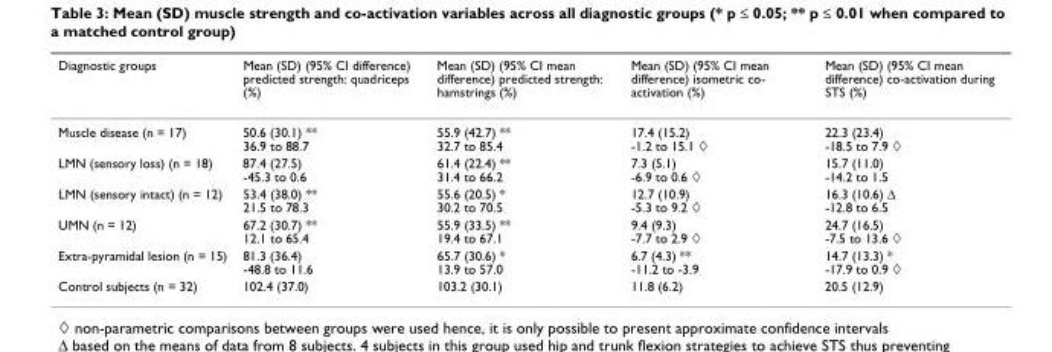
<table><thead><tr><td>Diagnostic groups</td><td>Mean (SD) (95% CI difference) predicted strength: quadriceps (%)</td><td>Mean (SD) (95% CI mean difference) predicted strength: hamstrings (%)</td><td>Mean (SD) (95% CI mean difference) isometric co- activation (%)</td><td>Mean (SD) (95% CI mean difference) co-activation during STS (%)</td></tr></thead><tbody><tr><td>Muscle disease (n = 17)</td><td>50.6 (30.1) ** 36.9 to 88.7</td><td>55.9 (42.7) ** 32.7 to 85.4</td><td>17.4 (15.2) -1.2 to 15.1 ◊</td><td>22.3 (23.4) -18.5 to 7.9 ◊</td></tr><tr><td>LMN (sensory loss) (n = 18)</td><td>87.4 (27.5) -45.3 to 0.6</td><td>61.4 (22.4) ** 31.4 to 66.2</td><td>7.3 (5.1) -6.9 to 0.6 ◊</td><td>15.7 (11.0) -14.2 to 1.5</td></tr><tr><td>LMN (sensory intact) (n = 12)</td><td>53.4 (38.0) ** 21.5 to 78.3</td><td>55.6 (20.5) * 30.2 to 70.5</td><td>12.7 (10.9) -5.3 to 9.2 ◊</td><td>16.3 (10.6) Δ -12.8 to 6.5</td></tr><tr><td>UMN (n = 12)</td><td>67.2 (30.7) ** 12.1 to 65.4</td><td>55.9 (33.5) ** 19.4 to 67.1</td><td>9.4 (9.3) -7.7 to 2.9 ◊</td><td>24.7 (16.5) -7.5 to 13.6 ◊</td></tr><tr><td>Extra-pyramidal lesion (n = 15)</td><td>81.3 (36.4) -48.8 to 11.6</td><td>65.7 (30.6) * 13.9 to 57.0</td><td>6.7 (4.3) ** -11.2 to -3.9</td><td>14.7 (13.3) * -17.9 to 0.9 ◊</td></tr><tr><td>Control subjects (n = 32)</td><td>102.4 (37.0)</td><td>103.2 (30.1)</td><td>11.8 (6.2)</td><td>20.5 (12.9)</td></tr></tbody></table>